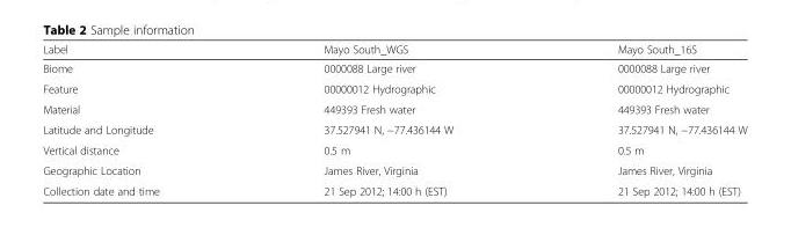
<table><thead><tr><td>Label</td><td>Mayo South_WGS</td><td>Mayo South_16S</td></tr></thead><tbody><tr><td>Biome</td><td>0000088 Large river</td><td>0000088 Large river</td></tr><tr><td>Feature</td><td>00000012 Hydrographic</td><td>00000012 Hydrographic</td></tr><tr><td>Material</td><td>449393 Fresh water</td><td>449393 Fresh water</td></tr><tr><td>Latitude and Longitude</td><td>37.527941 N, −77.436144 W</td><td>37.527941 N, −77.436144 W</td></tr><tr><td>Vertical distance</td><td>0.5 m</td><td>0.5 m</td></tr><tr><td>Geographic Location</td><td>James River, Virginia</td><td>James River, Virginia</td></tr><tr><td>Collection date and time</td><td>21 Sep 2012; 14:00 h (EST)</td><td>21 Sep 2012; 14:00 h (EST)</td></tr></tbody></table>